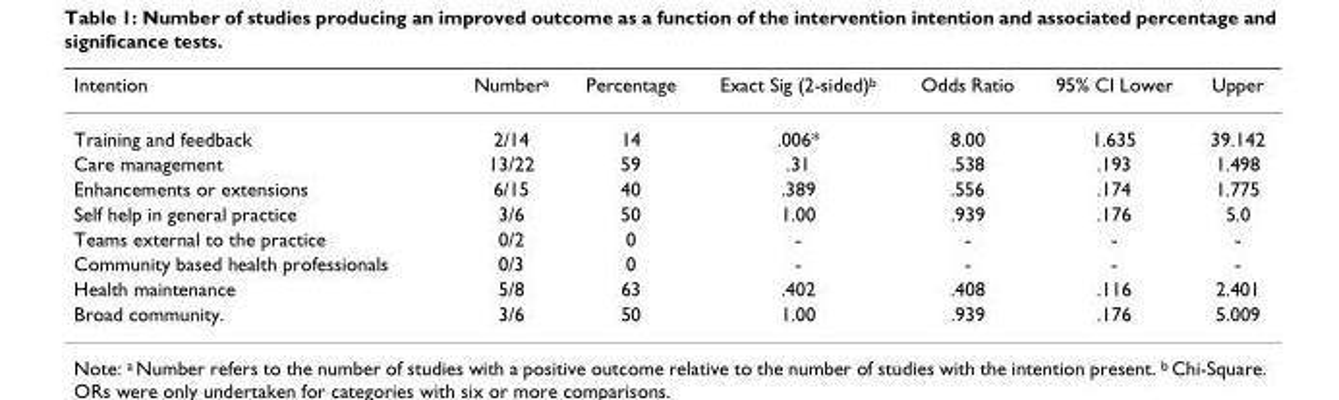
<table><thead><tr><td>Intention</td><td>Number<sup>a</sup></td><td>Percentage</td><td>Exact Sig (2-sided)<sup>b</sup></td><td>Odds Ratio</td><td>95% CI Lower</td><td>Upper</td></tr></thead><tbody><tr><td>Training and feedback</td><td>2/14</td><td>14</td><td>.006*</td><td>8.00</td><td>1.635</td><td>39.142</td></tr><tr><td>Care management</td><td>13/22</td><td>59</td><td>.31</td><td>.538</td><td>.193</td><td>1.498</td></tr><tr><td>Enhancements or extensions</td><td>6/15</td><td>40</td><td>.389</td><td>.556</td><td>.174</td><td>1.775</td></tr><tr><td>Self help in general practice</td><td>3/6</td><td>50</td><td>1.00</td><td>.939</td><td>.176</td><td>5.0</td></tr><tr><td>Teams external to the practice</td><td>0/2</td><td>0</td><td>-</td><td>-</td><td>-</td><td>-</td></tr><tr><td>Community based health professionals</td><td>0/3</td><td>0</td><td>-</td><td>-</td><td>-</td><td>-</td></tr><tr><td>Health maintenance</td><td>5/8</td><td>63</td><td>.402</td><td>.408</td><td>.116</td><td>2.401</td></tr><tr><td>Broad community.</td><td>3/6</td><td>50</td><td>1.00</td><td>.939</td><td>.176</td><td>5.009</td></tr></tbody></table>